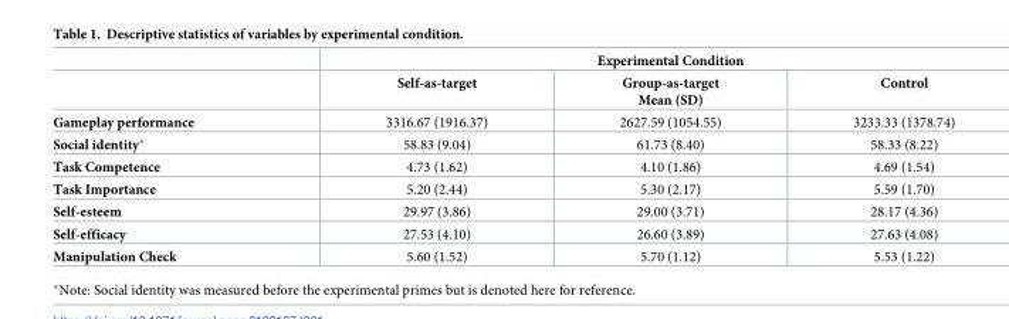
<table><thead><tr><td rowspan="2"></td><td colspan="3">Experimental Condition</td></tr><tr><td>Self-as-target</td><td>Group-as-target Mean (SD)</td><td>Control</td></tr></thead><tbody><tr><td>Gameplay performance</td><td>3316.67 (1916.37)</td><td>2627.59 (1054.55)</td><td>3233.33 (1378.74)</td></tr><tr><td>Social identity*</td><td>58.83 (9.04)</td><td>61.73 (8.40)</td><td>58.33 (8.22)</td></tr><tr><td>Task Competence</td><td>4.73 (1.62)</td><td>4.10 (1.86)</td><td>4.69 (1.54)</td></tr><tr><td>Task Importance</td><td>5.20 (2.44)</td><td>5.30 (2.17)</td><td>5.59 (1.70)</td></tr><tr><td>Self-esteem</td><td>29.97 (3.86)</td><td>29.00 (3.71)</td><td>28.17 (4.36)</td></tr><tr><td>Self-efficacy</td><td>27.53 (4.10)</td><td>26.60 (3.89)</td><td>27.63 (4.08)</td></tr><tr><td>Manipulation Check</td><td>5.60 (1.52)</td><td>5.70 (1.12)</td><td>5.53 (1.22)</td></tr></tbody></table>